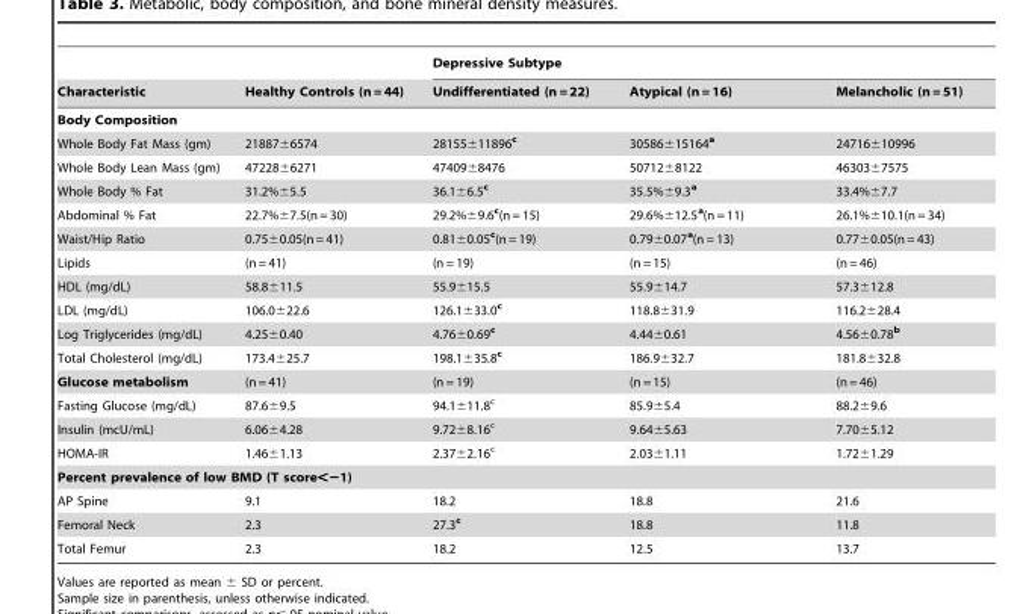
<table><thead><tr><td rowspan="2">Characteristic</td><td rowspan="2">Healthy Controls (n = 44)</td><td colspan="3">Depressive Subtype</td></tr><tr><td>Undifferentiated (n = 22)</td><td>Atypical (n = 16)</td><td>Melancholic (n = 51)</td></tr></thead><tbody><tr><td colspan="5">Body Composition</td></tr><tr><td>Whole Body Fat Mass (gm)</td><td>21887±6574</td><td>28155±11896<sup>c</sup></td><td>30586±15164<sup>a</sup></td><td>24716±10996</td></tr><tr><td>Whole Body Lean Mass (gm)</td><td>47228±6271</td><td>47409±8476</td><td>50712±8122</td><td>46303±7575</td></tr><tr><td>Whole Body % Fat</td><td>31.2%±5.5</td><td>36.1±6.5<sup>c</sup></td><td>35.5%±9.3<sup>a</sup></td><td>33.4%±7.7</td></tr><tr><td>Abdominal % Fat</td><td>22.7%±7.5(n = 30)</td><td>29.2%±9.6<sup>c</sup>(n = 15)</td><td>29.6%±12.5<sup>a</sup>(n = 11)</td><td>26.1%±10.1(n = 34)</td></tr><tr><td>Waist/Hip Ratio</td><td>0.75±0.05(n = 41)</td><td>0.81±0.05<sup>c</sup>(n = 19)</td><td>0.79±0.07<sup>a</sup>(n = 13)</td><td>0.77±0.05(n = 43)</td></tr><tr><td>Lipids</td><td>(n = 41)</td><td>(n = 19)</td><td>(n = 15)</td><td>(n = 46)</td></tr><tr><td>HDL (mg/dL)</td><td>58.8±11.5</td><td>55.9±15.5</td><td>55.9±14.7</td><td>57.3±12.8</td></tr><tr><td>LDL (mg/dL)</td><td>106.0±22.6</td><td>126.1±33.0<sup>c</sup></td><td>118.8±31.9</td><td>116.2±28.4</td></tr><tr><td>Log Triglycerides (mg/dL)</td><td>4.25±0.40</td><td>4.76±0.69<sup>c</sup></td><td>4.44±0.61</td><td>4.56±0.78<sup>b</sup></td></tr><tr><td>Total Cholesterol (mg/dL)</td><td>173.4±25.7</td><td>198.1±35.8<sup>c</sup></td><td>186.9±32.7</td><td>181.8±32.8</td></tr><tr><td>Glucose metabolism</td><td>(n = 41)</td><td>(n = 19)</td><td>(n = 15)</td><td>(n = 46)</td></tr><tr><td>Fasting Glucose (mg/dL)</td><td>87.6±9.5</td><td>94.1±11.8<sup>c</sup></td><td>85.9±5.4</td><td>88.2±9.6</td></tr><tr><td>Insulin (mcU/mL)</td><td>6.06±4.28</td><td>9.72±8.16<sup>c</sup></td><td>9.64±5.63</td><td>7.70±5.12</td></tr><tr><td>HOMA-IR</td><td>1.46±1.13</td><td>2.37±2.16<sup>c</sup></td><td>2.03±1.11</td><td>1.72±1.29</td></tr><tr><td colspan="5">Percent prevalence of low BMD (T score&lt;−1)</td></tr><tr><td>AP Spine</td><td>9.1</td><td>18.2</td><td>18.8</td><td>21.6</td></tr><tr><td>Femoral Neck</td><td>2.3</td><td>27.3<sup>c</sup></td><td>18.8</td><td>11.8</td></tr><tr><td>Total Femur</td><td>2.3</td><td>18.2</td><td>12.5</td><td>13.7</td></tr></tbody></table>